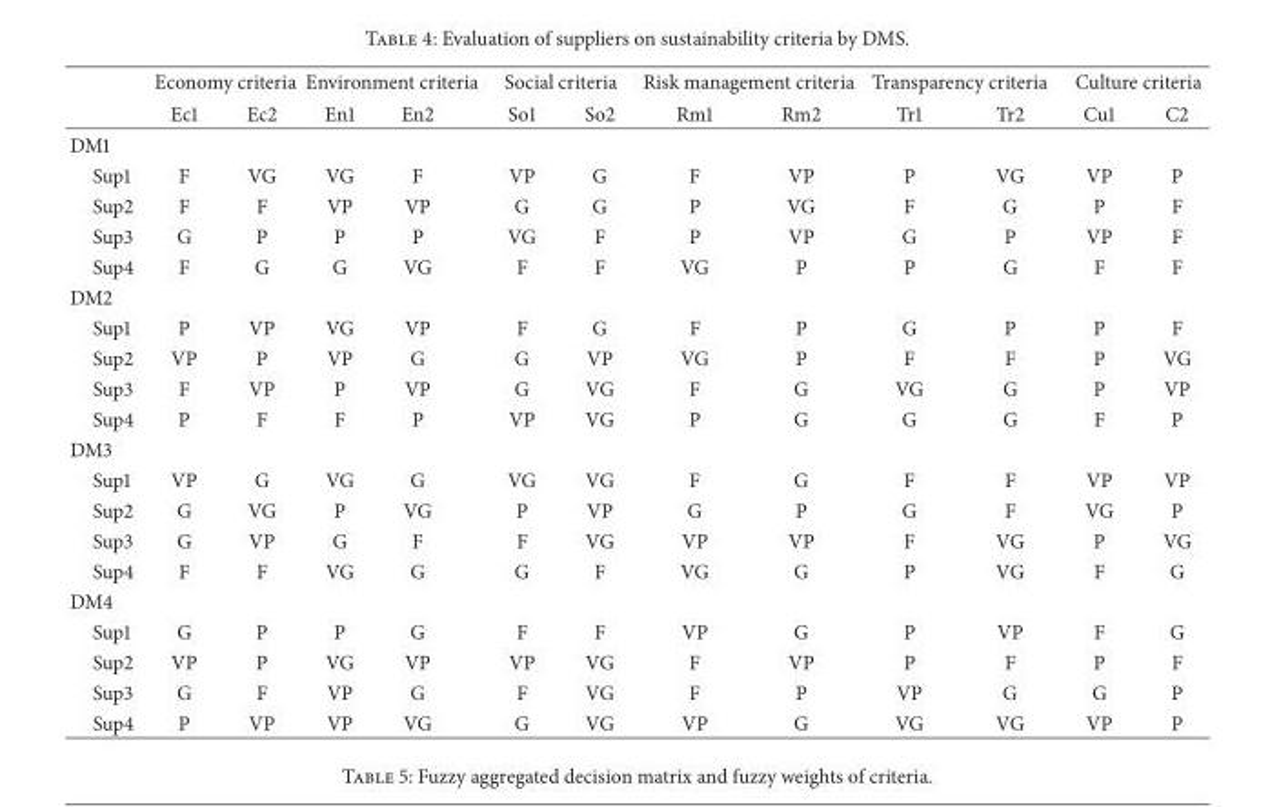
<table><thead><tr><td rowspan="2"></td><td colspan="2">Economy criteria</td><td colspan="2">Environment criteria</td><td colspan="2">Social criteria</td><td colspan="2">Risk management criteria</td><td colspan="2">Transparency criteria</td><td colspan="2">Culture criteria</td></tr><tr><td>Ec1</td><td>Ec2</td><td>En1</td><td>En2</td><td>So1</td><td>So2</td><td>Rm1</td><td>Rm2</td><td>Tr1</td><td>Tr2</td><td>Cu1</td><td>C2</td></tr></thead><tbody><tr><td colspan="13">DM1</td></tr><tr><td>Sup1</td><td>F</td><td>VG</td><td>VG</td><td>F</td><td>VP</td><td>G</td><td>F</td><td>VP</td><td>P</td><td>VG</td><td>VP</td><td>P</td></tr><tr><td>Sup2</td><td>F</td><td>F</td><td>VP</td><td>VP</td><td>G</td><td>G</td><td>P</td><td>VG</td><td>F</td><td>G</td><td>P</td><td>F</td></tr><tr><td>Sup3</td><td>G</td><td>P</td><td>P</td><td>P</td><td>VG</td><td>F</td><td>P</td><td>VP</td><td>G</td><td>P</td><td>VP</td><td>F</td></tr><tr><td>Sup4</td><td>F</td><td>G</td><td>G</td><td>VG</td><td>F</td><td>F</td><td>VG</td><td>P</td><td>P</td><td>G</td><td>F</td><td>F</td></tr><tr><td colspan="13">DM2</td></tr><tr><td>Sup1</td><td>P</td><td>VP</td><td>VG</td><td>VP</td><td>F</td><td>G</td><td>F</td><td>P</td><td>G</td><td>P</td><td>P</td><td>F</td></tr><tr><td>Sup2</td><td>VP</td><td>P</td><td>VP</td><td>G</td><td>G</td><td>VP</td><td>VG</td><td>P</td><td>F</td><td>F</td><td>P</td><td>VG</td></tr><tr><td>Sup3</td><td>F</td><td>VP</td><td>P</td><td>VP</td><td>G</td><td>VG</td><td>F</td><td>G</td><td>VG</td><td>G</td><td>P</td><td>VP</td></tr><tr><td>Sup4</td><td>P</td><td>F</td><td>F</td><td>P</td><td>VP</td><td>VG</td><td>P</td><td>G</td><td>G</td><td>G</td><td>F</td><td>P</td></tr><tr><td colspan="13">DM3</td></tr><tr><td>Sup1</td><td>VP</td><td>G</td><td>VG</td><td>G</td><td>VG</td><td>VG</td><td>F</td><td>G</td><td>F</td><td>F</td><td>VP</td><td>VP</td></tr><tr><td>Sup2</td><td>G</td><td>VG</td><td>P</td><td>VG</td><td>P</td><td>VP</td><td>G</td><td>P</td><td>G</td><td>F</td><td>VG</td><td>P</td></tr><tr><td>Sup3</td><td>G</td><td>VP</td><td>G</td><td>F</td><td>F</td><td>VG</td><td>VP</td><td>VP</td><td>F</td><td>VG</td><td>P</td><td>VG</td></tr><tr><td>Sup4</td><td>F</td><td>F</td><td>VG</td><td>G</td><td>G</td><td>F</td><td>VG</td><td>G</td><td>P</td><td>VG</td><td>F</td><td>G</td></tr><tr><td colspan="13">DM4</td></tr><tr><td>Sup1</td><td>G</td><td>P</td><td>P</td><td>G</td><td>F</td><td>F</td><td>VP</td><td>G</td><td>P</td><td>VP</td><td>F</td><td>G</td></tr><tr><td>Sup2</td><td>VP</td><td>P</td><td>VG</td><td>VP</td><td>VP</td><td>VG</td><td>F</td><td>VP</td><td>P</td><td>F</td><td>P</td><td>F</td></tr><tr><td>Sup3</td><td>G</td><td>F</td><td>VP</td><td>G</td><td>F</td><td>VG</td><td>F</td><td>P</td><td>VP</td><td>G</td><td>G</td><td>P</td></tr><tr><td>Sup4</td><td>P</td><td>VP</td><td>VP</td><td>VG</td><td>G</td><td>VG</td><td>VP</td><td>G</td><td>VG</td><td>VG</td><td>VP</td><td>P</td></tr></tbody></table>